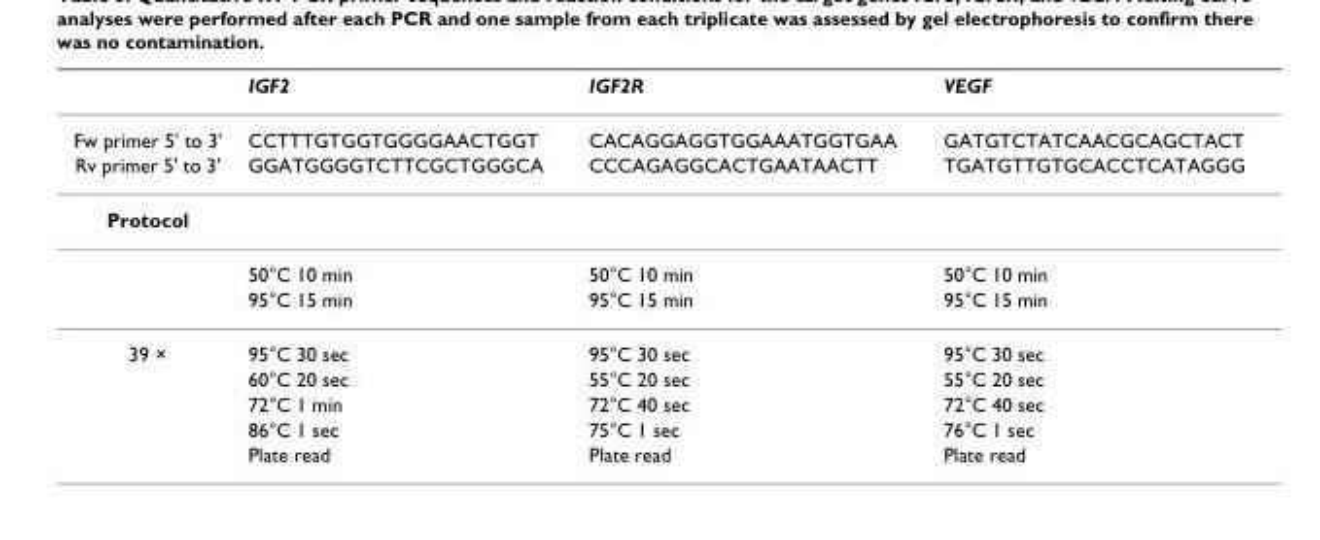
<table><thead><tr><td></td><td>IGF2</td><td>IGF2R</td><td>VEGF</td></tr></thead><tbody><tr><td>Fw primer 5&#x27; to 3&#x27;</td><td>CCTTTGTGGTGGGGAACTGGT</td><td>CACAGGAGGTGGAAATGGTGAA</td><td>GATGTCTATCAACGCAGCTACT</td></tr><tr><td>Rv primer 5&#x27; to 3&#x27;</td><td>GGATGGGGTCTTCGCTGGGCA</td><td>CCCAGAGGCACTGAATAACTT</td><td>TGATGTTGTGCACCTCATAGGG</td></tr><tr><td colspan="4">Protocol</td></tr><tr><td></td><td>50°C 10 min</td><td>50°C 10 min</td><td>50°C 10 min</td></tr><tr><td></td><td>95°C 15 min</td><td>95°C 15 min</td><td>95°C 15 min</td></tr><tr><td rowspan="5">39 ×</td><td>95°C 30 sec</td><td>95°C 30 sec</td><td>95°C 30 sec</td></tr><tr><td>60°C 20 sec</td><td>55°C 20 sec</td><td>55°C 20 sec</td></tr><tr><td>72°C 1 min</td><td>72°C 40 sec</td><td>72°C 40 sec</td></tr><tr><td>86°C 1 sec</td><td>75°C 1 sec</td><td>76°C 1 sec</td></tr><tr><td>Plate read</td><td>Plate read</td><td>Plate read</td></tr></tbody></table>